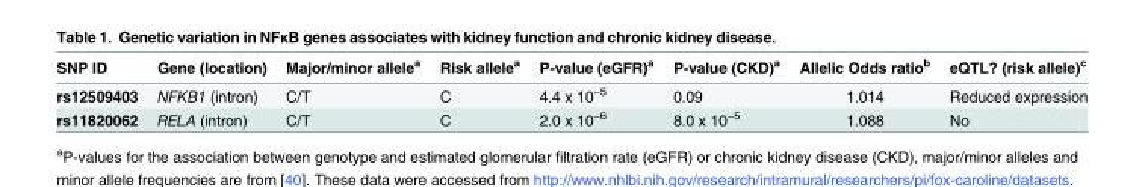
<table><thead><tr><td>SNP ID</td><td>Gene (location)</td><td>Major/minor allele<sup>a</sup></td><td>Risk allele<sup>a</sup></td><td>P-value (eGFR)<sup>a</sup></td><td>P-value (CKD)<sup>a</sup></td><td>Allelic Odds ratio<sup>b</sup></td><td>eQTL? (risk allele)<sup>c</sup></td></tr></thead><tbody><tr><td>rs12509403</td><td>NFKB1 (intron)</td><td>C/T</td><td>C</td><td>4.4 x 10<sup>−5</sup></td><td>0.09</td><td>1.014</td><td>Reduced expression</td></tr><tr><td>rs11820062</td><td>RELA (intron)</td><td>C/T</td><td>C</td><td>2.0 x 10<sup>−6</sup></td><td>8.0 x 10<sup>−5</sup></td><td>1.088</td><td>No</td></tr></tbody></table>